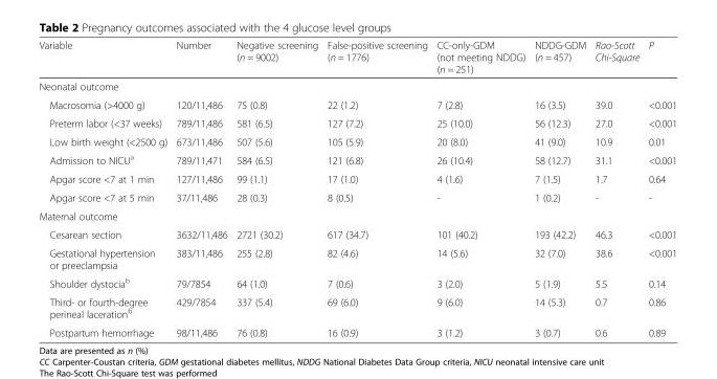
<table><thead><tr><td>Variable</td><td>Number</td><td>Negative screening (n = 9002)</td><td>False-positive screening (n = 1776)</td><td>CC-only-GDM (not meeting NDDG) (n = 251)</td><td>NDDG-GDM (n = 457)</td><td>Rao-Scott Chi-Square</td><td>P</td></tr></thead><tbody><tr><td colspan="8">Neonatal outcome</td></tr><tr><td>Macrosomia (&gt;4000 g)</td><td>120/11,486</td><td>75 (0.8)</td><td>22 (1.2)</td><td>7 (2.8)</td><td>16 (3.5)</td><td>39.0</td><td>&lt;0.001</td></tr><tr><td>Preterm labor (&lt;37 weeks)</td><td>789/11,486</td><td>581 (6.5)</td><td>127 (7.2)</td><td>25 (10.0)</td><td>56 (12.3)</td><td>27.0</td><td>&lt;0.001</td></tr><tr><td>Low birth weight (&lt;2500 g)</td><td>673/11,486</td><td>507 (5.6)</td><td>105 (5.9)</td><td>20 (8.0)</td><td>41 (9.0)</td><td>10.9</td><td>0.01</td></tr><tr><td>Admission to NICU<sup>a</sup></td><td>789/11,471</td><td>584 (6.5)</td><td>121 (6.8)</td><td>26 (10.4)</td><td>58 (12.7)</td><td>31.1</td><td>&lt;0.001</td></tr><tr><td>Apgar score &lt;7 at 1 min</td><td>127/11,486</td><td>99 (1.1)</td><td>17 (1.0)</td><td>4 (1.6)</td><td>7 (1.5)</td><td>1.7</td><td>0.64</td></tr><tr><td>Apgar score &lt;7 at 5 min</td><td>37/11,486</td><td>28 (0.3)</td><td>8 (0.5)</td><td>-</td><td>1 (0.2)</td><td>-</td><td>-</td></tr><tr><td colspan="8">Maternal outcome</td></tr><tr><td>Cesarean section</td><td>3632/11,486</td><td>2721 (30.2)</td><td>617 (34.7)</td><td>101 (40.2)</td><td>193 (42.2)</td><td>46.3</td><td>&lt;0.001</td></tr><tr><td>Gestational hypertension or preeclampsia</td><td>383/11,486</td><td>255 (2.8)</td><td>82 (4.6)</td><td>14 (5.6)</td><td>32 (7.0)</td><td>38.6</td><td>&lt;0.001</td></tr><tr><td>Shoulder dystocia<sup>b</sup></td><td>79/7854</td><td>64 (1.0)</td><td>7 (0.6)</td><td>3 (2.0)</td><td>5 (1.9)</td><td>5.5</td><td>0.14</td></tr><tr><td>Third- or fourth-degree perineal laceration<sup>b</sup></td><td>429/7854</td><td>337 (5.4)</td><td>69 (6.0)</td><td>9 (6.0)</td><td>14 (5.3)</td><td>0.7</td><td>0.86</td></tr><tr><td>Postpartum hemorrhage</td><td>98/11,486</td><td>76 (0.8)</td><td>16 (0.9)</td><td>3 (1.2)</td><td>3 (0.7)</td><td>0.6</td><td>0.89</td></tr></tbody></table>